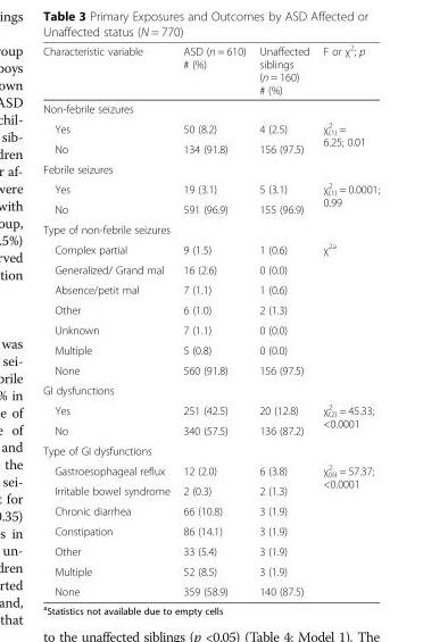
<table><thead><tr><td>Characteristic variable</td><td>ASD (n = 610) # (%)</td><td>Unaffected siblings (n = 160) # (%)</td><td>F or χ<sup>2</sup>; p</td></tr></thead><tbody><tr><td colspan="4">Non-febrile seizures</td></tr><tr><td>Yes</td><td>50 (8.2)</td><td>4 (2.5)</td><td rowspan="2">χ<sup>2</sup> <sub>(1)</sub> = 6.25; 0.01</td></tr><tr><td>No</td><td>134 (91.8)</td><td>156 (97.5)</td></tr><tr><td colspan="4">Febrile seizures</td></tr><tr><td>Yes</td><td>19 (3.1)</td><td>5 (3.1)</td><td rowspan="2">χ<sup>2</sup> <sub>(1)</sub> = 0.0001; 0.99</td></tr><tr><td>No</td><td>591 (96.9)</td><td>155 (96.9)</td></tr><tr><td colspan="4">Type of non-febrile seizures</td></tr><tr><td>Complex partial</td><td>9 (1.5)</td><td>1 (0.6)</td><td rowspan="7">χ<sup>2a</sup></td></tr><tr><td>Generalized/ Grand mal</td><td>16 (2.6)</td><td>0 (0.0)</td></tr><tr><td>Absence/petit mal</td><td>7 (1.1)</td><td>1 (0.6)</td></tr><tr><td>Other</td><td>6 (1.0)</td><td>2 (1.3)</td></tr><tr><td>Unknown</td><td>7 (1.1)</td><td>0 (0.0)</td></tr><tr><td>Multiple</td><td>5 (0.8)</td><td>0 (0.0)</td></tr><tr><td>None</td><td>560 (91.8)</td><td>156 (97.5)</td></tr><tr><td colspan="4">GI dysfunctions</td></tr><tr><td>Yes</td><td>251 (42.5)</td><td>20 (12.8)</td><td rowspan="2">χ<sup>2</sup> <sub>(2)</sub> = 45.33; &lt;0.0001</td></tr><tr><td>No</td><td>340 (57.5)</td><td>136 (87.2)</td></tr><tr><td colspan="4">Type of GI dysfunctions</td></tr><tr><td>Gastroesophageal reflux</td><td>12 (2.0)</td><td>6 (3.8)</td><td rowspan="7">χ<sup>2</sup> <sub>(6)</sub> = 57.37; &lt;0.0001</td></tr><tr><td>Irritable bowel syndrome</td><td>2 (0.3)</td><td>2 (1.3)</td></tr><tr><td>Chronic diarrhea</td><td>66 (10.8)</td><td>3 (1.9)</td></tr><tr><td>Constipation</td><td>86 (14.1)</td><td>3 (1.9)</td></tr><tr><td>Other</td><td>33 (5.4)</td><td>3 (1.9)</td></tr><tr><td>Multiple</td><td>52 (8.5)</td><td>3 (1.9)</td></tr><tr><td>None</td><td>359 (58.9)</td><td>140 (87.5)</td></tr></tbody></table>